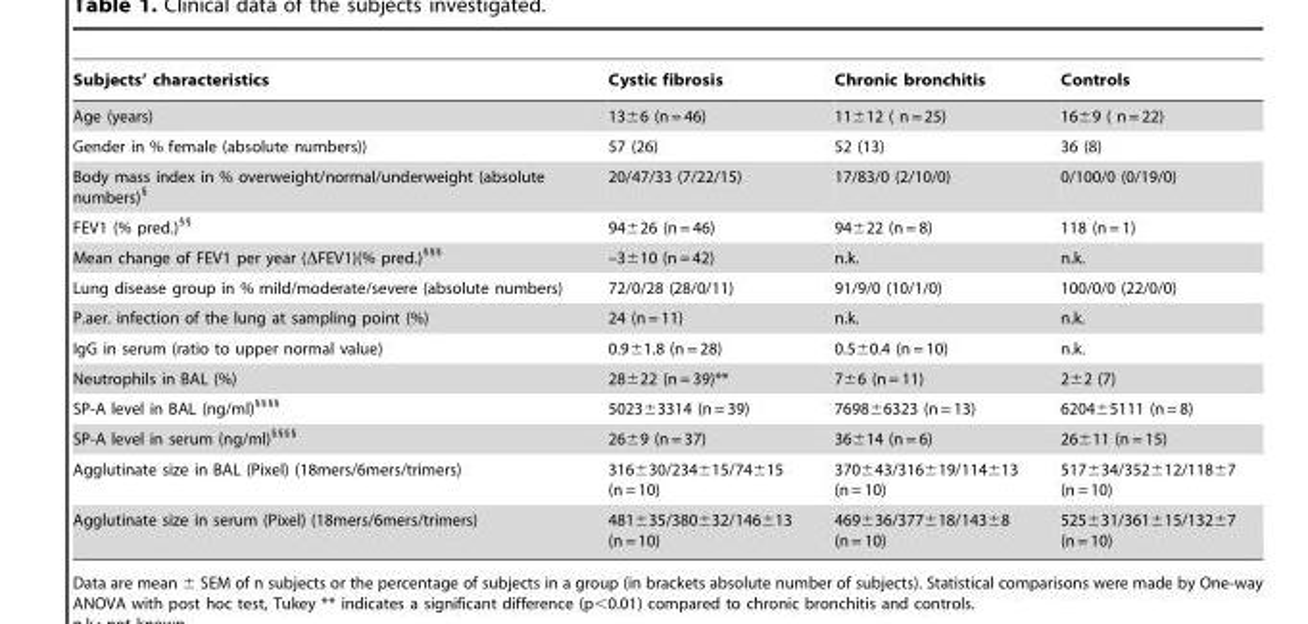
<table><thead><tr><td>Subjects’ characteristics</td><td>Cystic fibrosis</td><td>Chronic bronchitis</td><td>Controls</td></tr></thead><tbody><tr><td>Age (years)</td><td>13±6 (n = 46)</td><td>11±12 ( n = 25)</td><td>16±9 ( n = 22)</td></tr><tr><td>Gender in % female (absolute numbers))</td><td>57 (26)</td><td>52 (13)</td><td>36 (8)</td></tr><tr><td>Body mass index in % overweight/normal/underweight (absolute numbers)§</td><td>20/47/33 (7/22/15)</td><td>17/83/0 (2/10/0)</td><td>0/100/0 (0/19/0)</td></tr><tr><td>FEV1 (% pred.)§§</td><td>94±26 (n = 46)</td><td>94±22 (n = 8)</td><td>118 (n = 1)</td></tr><tr><td>Mean change of FEV1 per year (ΔFEV1)(% pred.)§§§</td><td>–3±10 (n = 42)</td><td>n.k.</td><td>n.k.</td></tr><tr><td>Lung disease group in % mild/moderate/severe (absolute numbers)</td><td>72/0/28 (28/0/11)</td><td>91/9/0 (10/1/0)</td><td>100/0/0 (22/0/0)</td></tr><tr><td>P.aer. infection of the lung at sampling point (%)</td><td>24 (n = 11)</td><td>n.k.</td><td>n.k.</td></tr><tr><td>IgG in serum (ratio to upper normal value)</td><td>0.9±1.8 (n = 28)</td><td>0.5±0.4 (n = 10)</td><td>n.k.</td></tr><tr><td>Neutrophils in BAL (%)</td><td>28±22 (n = 39)**</td><td>7±6 (n = 11)</td><td>2±2 (7)</td></tr><tr><td>SP-A level in BAL (ng/ml)§§§§</td><td>5023±3314 (n = 39)</td><td>7698±6323 (n = 13)</td><td>6204±5111 (n = 8)</td></tr><tr><td>SP-A level in serum (ng/ml)§§§§</td><td>26±9 (n = 37)</td><td>36±14 (n = 6)</td><td>26±11 (n = 15)</td></tr><tr><td>Agglutinate size in BAL (Pixel) (18mers/6mers/trimers)</td><td>316±30/234±15/74±15 (n = 10)</td><td>370±43/316±19/114±13 (n = 10)</td><td>517±34/352±12/118±7 (n = 10)</td></tr><tr><td>Agglutinate size in serum (Pixel) (18mers/6mers/trimers)</td><td>481±35/380±32/146±13 (n = 10)</td><td>469±36/377±18/143±8 (n = 10)</td><td>525±31/361±15/132±7 (n = 10)</td></tr></tbody></table>